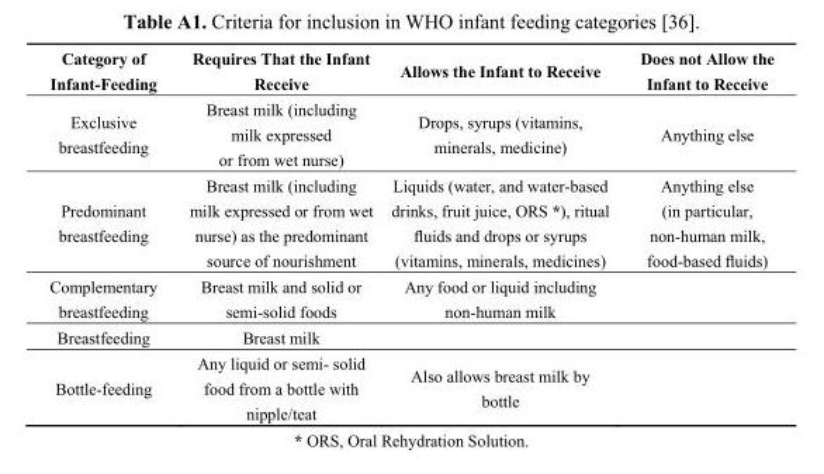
<table><thead><tr><td>Category of Infant-Feeding</td><td>Requires That the Infant Receive</td><td>Allows the Infant to Receive</td><td>Does not Allow the Infant to Receive</td></tr></thead><tbody><tr><td>Exclusive breastfeeding</td><td>Breast milk (including milk expressed or from wet nurse)</td><td>Drops, syrups (vitamins, minerals, medicine)</td><td>Anything else</td></tr><tr><td>Predominant breastfeeding</td><td>Breast milk (including milk expressed or from wet nurse) as the predominant source of nourishment</td><td>Liquids (water, and water-based drinks, fruit juice, ORS *), ritual fluids and drops or syrups (vitamins, minerals, medicines)</td><td>Anything else (in particular, non-human milk, food-based fluids)</td></tr><tr><td>Complementary breastfeeding</td><td>Breast milk and solid or semi-solid foods</td><td>Any food or liquid including non-human milk</td><td></td></tr><tr><td>Breastfeeding</td><td>Breast milk</td><td></td><td></td></tr><tr><td>Bottle-feeding</td><td>Any liquid or semi- solid food from a bottle with nipple/teat</td><td>Also allows breast milk by bottle</td><td></td></tr></tbody></table>